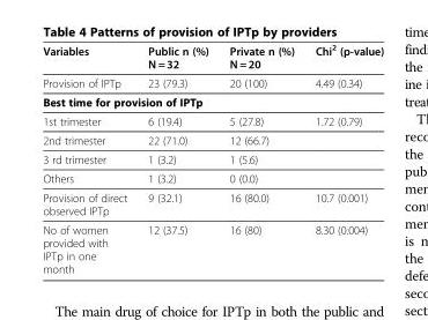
<table><thead><tr><td>Variables</td><td>Public n (%) N = 32</td><td>Private n (%) N = 20</td><td>Chi<sup>2</sup> (p-value)</td></tr></thead><tbody><tr><td>Provision of IPTp</td><td>23 (79.3)</td><td>20 (100)</td><td>4.49 (0.34)</td></tr><tr><td colspan="4">Best time for provision of IPTp</td></tr><tr><td>1st trimester</td><td>6 (19.4)</td><td>5 (27.8)</td><td>1.72 (0.79)</td></tr><tr><td>2nd trimester</td><td>22 (71.0)</td><td>12 (66.7)</td><td></td></tr><tr><td>3 rd trimester</td><td>1 (3.2)</td><td>1 (5.6)</td><td></td></tr><tr><td>Others</td><td>1 (3.2)</td><td>0 (0.0)</td><td></td></tr><tr><td>Provision of direct observed IPTp</td><td>9 (32.1)</td><td>16 (80.0)</td><td>10.7 (0.001)</td></tr><tr><td>No of women provided with IPTp in one month</td><td>12 (37.5)</td><td>16 (80)</td><td>8.30 (0.004)</td></tr></tbody></table>